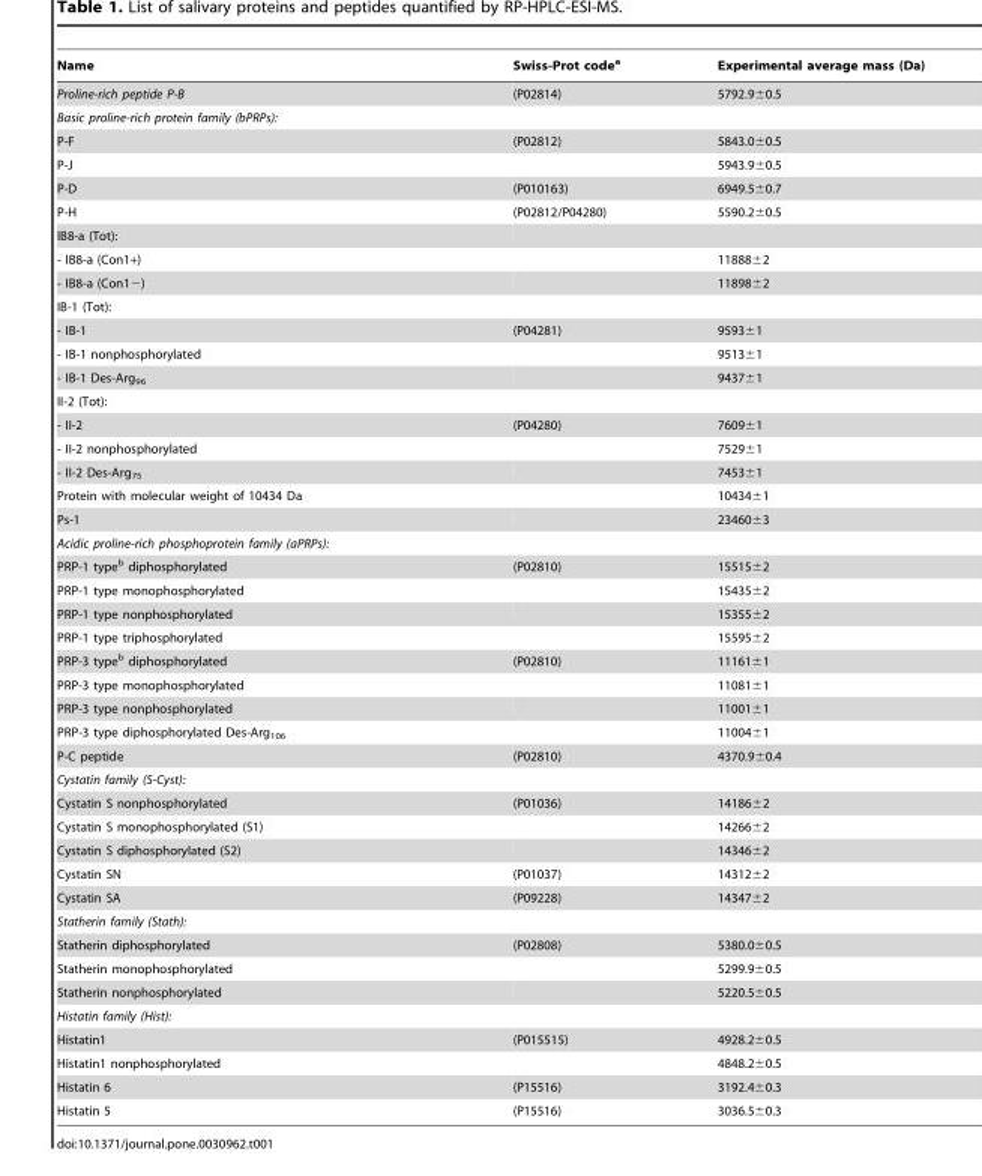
<table><thead><tr><td>Name</td><td>Swiss-Prot code<sup>a</sup></td><td>Experimental average mass (Da)</td></tr></thead><tbody><tr><td>Proline-rich peptide P-B</td><td>(P02814)</td><td>5792.9±0.5</td></tr><tr><td colspan="3">Basic proline-rich protein family (bPRPs):</td></tr><tr><td>P-F</td><td>(P02812)</td><td>5843.0±0.5</td></tr><tr><td>P-J</td><td></td><td>5943.9±0.5</td></tr><tr><td>P-D</td><td>(P010163)</td><td>6949.5±0.7</td></tr><tr><td>P-H</td><td>(P02812/P04280)</td><td>5590.2±0.5</td></tr><tr><td colspan="3">IB8-a (Tot):</td></tr><tr><td>- IB8-a (Con1+)</td><td></td><td>11888±2</td></tr><tr><td>- IB8-a (Con1−)</td><td></td><td>11898±2</td></tr><tr><td colspan="3">IB-1 (Tot):</td></tr><tr><td>- IB-1</td><td>(P04281)</td><td>9593±1</td></tr><tr><td>- IB-1 nonphosphorylated</td><td></td><td>9513±1</td></tr><tr><td>- IB-1 Des-Arg<sub>96</sub></td><td></td><td>9437±1</td></tr><tr><td colspan="3">II-2 (Tot):</td></tr><tr><td>- II-2</td><td>(P04280)</td><td>7609±1</td></tr><tr><td>- II-2 nonphosphorylated</td><td></td><td>7529±1</td></tr><tr><td>- II-2 Des-Arg<sub>75</sub></td><td></td><td>7453±1</td></tr><tr><td>Protein with molecular weight of 10434 Da</td><td></td><td>10434±1</td></tr><tr><td>Ps-1</td><td></td><td>23460±3</td></tr><tr><td colspan="3">Acidic proline-rich phosphoprotein family (aPRPs):</td></tr><tr><td>PRP-1 type<sup>b</sup> diphosphorylated</td><td>(P02810)</td><td>15515±2</td></tr><tr><td>PRP-1 type monophosphorylated</td><td></td><td>15435±2</td></tr><tr><td>PRP-1 type nonphosphorylated</td><td></td><td>15355±2</td></tr><tr><td>PRP-1 type triphosphorylated</td><td></td><td>15595±2</td></tr><tr><td>PRP-3 type<sup>b</sup> diphosphorylated</td><td>(P02810)</td><td>11161±1</td></tr><tr><td>PRP-3 type monophosphorylated</td><td></td><td>11081±1</td></tr><tr><td>PRP-3 type nonphosphorylated</td><td></td><td>11001±1</td></tr><tr><td>PRP-3 type diphosphorylated Des-Arg<sub>106</sub></td><td></td><td>11004±1</td></tr><tr><td>P-C peptide</td><td>(P02810)</td><td>4370.9±0.4</td></tr><tr><td colspan="3">Cystatin family (S-Cyst):</td></tr><tr><td>Cystatin S nonphosphorylated</td><td>(P01036)</td><td>14186±2</td></tr><tr><td>Cystatin S monophosphorylated (S1)</td><td></td><td>14266±2</td></tr><tr><td>Cystatin S diphosphorylated (S2)</td><td></td><td>14346±2</td></tr><tr><td>Cystatin SN</td><td>(P01037)</td><td>14312±2</td></tr><tr><td>Cystatin SA</td><td>(P09228)</td><td>14347±2</td></tr><tr><td colspan="3">Statherin family (Stath):</td></tr><tr><td>Statherin diphosphorylated</td><td>(P02808)</td><td>5380.0±0.5</td></tr><tr><td>Statherin monophosphorylated</td><td></td><td>5299.9±0.5</td></tr><tr><td>Statherin nonphosphorylated</td><td></td><td>5220.5±0.5</td></tr><tr><td colspan="3">Histatin family (Hist):</td></tr><tr><td>Histatin1</td><td>(P015515)</td><td>4928.2±0.5</td></tr><tr><td>Histatin1 nonphosphorylated</td><td></td><td>4848.2±0.5</td></tr><tr><td>Histatin 6</td><td>(P15516)</td><td>3192.4±0.3</td></tr><tr><td>Histatin 5</td><td>(P15516)</td><td>3036.5±0.3</td></tr></tbody></table>